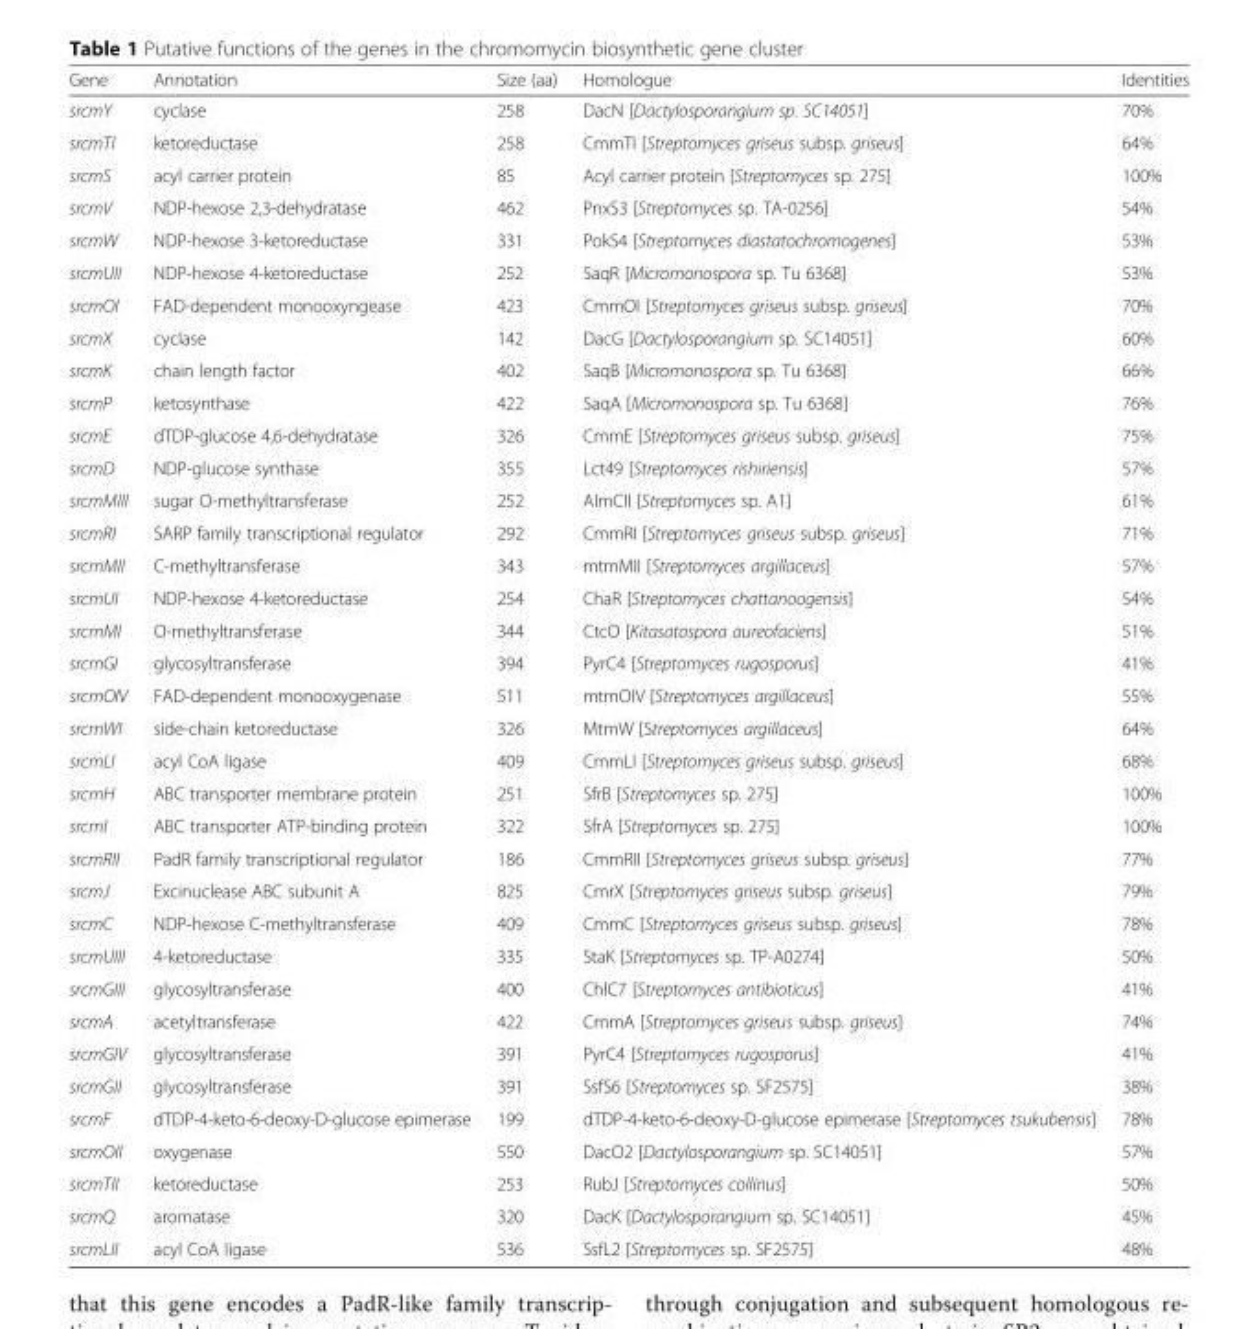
<table><thead><tr><td>Gene</td><td>Annotation</td><td>Size (aa)</td><td>Homologue</td><td>Identities</td></tr></thead><tbody><tr><td>srcmY</td><td>cyclase</td><td>258</td><td>DacN [Dactylosporangium sp. SC14051]</td><td>70%</td></tr><tr><td>srcmTI</td><td>ketoreductase</td><td>258</td><td>CmmTI [Streptomyces griseus subsp. griseus]</td><td>64%</td></tr><tr><td>srcmS</td><td>acyl carrier protein</td><td>85</td><td>Acyl carrier protein [Streptomyces sp. 275]</td><td>100%</td></tr><tr><td>srcmV</td><td>NDP-hexose 2,3-dehydratase</td><td>462</td><td>PnxS3 [Streptomyces sp. TA-0256]</td><td>54%</td></tr><tr><td>srcmW</td><td>NDP-hexose 3-ketoreductase</td><td>331</td><td>PokS4 [Streptomyces diastatochromogenes]</td><td>53%</td></tr><tr><td>srcmUII</td><td>NDP-hexose 4-ketoreductase</td><td>252</td><td>SaqR [Micromonospora sp. Tu 6368]</td><td>53%</td></tr><tr><td>srcmOI</td><td>FAD-dependent monooxyngease</td><td>423</td><td>CmmOI [Streptomyces griseus subsp. griseus]</td><td>70%</td></tr><tr><td>srcmX</td><td>cyclase</td><td>142</td><td>DacG [Dactylosporangium sp. SC14051]</td><td>60%</td></tr><tr><td>srcmK</td><td>chain length factor</td><td>402</td><td>SaqB [Micromonospora sp. Tu 6368]</td><td>66%</td></tr><tr><td>srcmP</td><td>ketosynthase</td><td>422</td><td>SaqA [Micromonospora sp. Tu 6368]</td><td>76%</td></tr><tr><td>srcmE</td><td>dTDP-glucose 4,6-dehydratase</td><td>326</td><td>CmmE [Streptomyces griseus subsp. griseus]</td><td>75%</td></tr><tr><td>srcmD</td><td>NDP-glucose synthase</td><td>355</td><td>Lct49 [Streptomyces rishiriensis]</td><td>57%</td></tr><tr><td>srcmMIII</td><td>sugar O-methyltransferase</td><td>252</td><td>AlmCII [Streptomyces sp. A1]</td><td>61%</td></tr><tr><td>srcmRI</td><td>SARP family transcriptional regulator</td><td>292</td><td>CmmRI [Streptomyces griseus subsp. griseus]</td><td>71%</td></tr><tr><td>srcmMII</td><td>C-methyltransferase</td><td>343</td><td>mtmMII [Streptomyces argillaceus]</td><td>57%</td></tr><tr><td>srcmUI</td><td>NDP-hexose 4-ketoreductase</td><td>254</td><td>ChaR [Streptomyces chattanoogensis]</td><td>54%</td></tr><tr><td>srcmMI</td><td>O-methyltransferase</td><td>344</td><td>CtcO [Kitasatospora aureofaciens]</td><td>51%</td></tr><tr><td>srcmGI</td><td>glycosyltransferase</td><td>394</td><td>PyrC4 [Streptomyces rugosporus]</td><td>41%</td></tr><tr><td>srcmOIV</td><td>FAD-dependent monooxygenase</td><td>511</td><td>mtmOIV [Streptomyces argillaceus]</td><td>55%</td></tr><tr><td>srcmWI</td><td>side-chain ketoreductase</td><td>326</td><td>MtmW [Streptomyces argillaceus]</td><td>64%</td></tr><tr><td>srcmLI</td><td>acyl CoA ligase</td><td>409</td><td>CmmLI [Streptomyces griseus subsp. griseus]</td><td>68%</td></tr><tr><td>srcmH</td><td>ABC transporter membrane protein</td><td>251</td><td>SfrB [Streptomyces sp. 275]</td><td>100%</td></tr><tr><td>srcmI</td><td>ABC transporter ATP-binding protein</td><td>322</td><td>SfrA [Streptomyces sp. 275]</td><td>100%</td></tr><tr><td>srcmRII</td><td>PadR family transcriptional regulator</td><td>186</td><td>CmmRII [Streptomyces griseus subsp. griseus]</td><td>77%</td></tr><tr><td>srcmJ</td><td>Excinuclease ABC subunit A</td><td>825</td><td>CmrX [Streptomyces griseus subsp. griseus]</td><td>79%</td></tr><tr><td>srcmC</td><td>NDP-hexose C-methyltransferase</td><td>409</td><td>CmmC [Streptomyces griseus subsp. griseus]</td><td>78%</td></tr><tr><td>srcmUIII</td><td>4-ketoreductase</td><td>335</td><td>StaK [Streptomyces sp. TP-A0274]</td><td>50%</td></tr><tr><td>srcmGIII</td><td>glycosyltransferase</td><td>400</td><td>ChlC7 [Streptomyces antibioticus]</td><td>41%</td></tr><tr><td>srcmA</td><td>acetyltransferase</td><td>422</td><td>CmmA [Streptomyces griseus subsp. griseus]</td><td>74%</td></tr><tr><td>srcmGIV</td><td>glycosyltransferase</td><td>391</td><td>PyrC4 [Streptomyces rugosporus]</td><td>41%</td></tr><tr><td>srcmGII</td><td>glycosyltransferase</td><td>391</td><td>SsfS6 [Streptomyces sp. SF2575]</td><td>38%</td></tr><tr><td>srcmF</td><td>dTDP-4-keto-6-deoxy-D-glucose epimerase</td><td>199</td><td>dTDP-4-keto-6-deoxy-D-glucose epimerase [Streptomyces tsukubensis]</td><td>78%</td></tr><tr><td>srcmOII</td><td>oxygenase</td><td>550</td><td>DacO2 [Dactylosporangium sp. SC14051]</td><td>57%</td></tr><tr><td>srcmTII</td><td>ketoreductase</td><td>253</td><td>RubJ [Streptomyces collinus]</td><td>50%</td></tr><tr><td>srcmQ</td><td>aromatase</td><td>320</td><td>DacK [Dactylosporangium sp. SC14051]</td><td>45%</td></tr><tr><td>srcmLII</td><td>acyl CoA ligase</td><td>536</td><td>SsfL2 [Streptomyces sp. SF2575]</td><td>48%</td></tr></tbody></table>